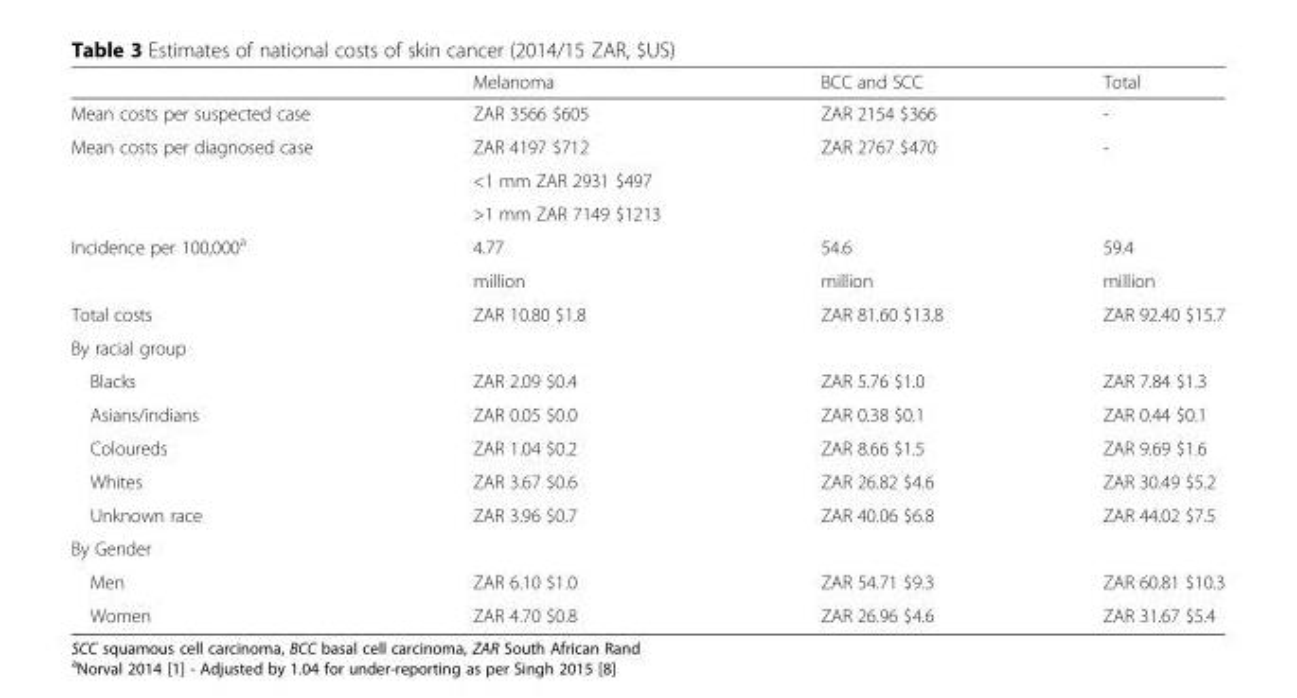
<table><thead><tr><td></td><td>Melanoma</td><td>BCC and SCC</td><td>Total</td></tr></thead><tbody><tr><td>Mean costs per suspected case</td><td>ZAR 3566 $605</td><td>ZAR 2154 $366</td><td>-</td></tr><tr><td rowspan="3">Mean costs per diagnosed case</td><td>ZAR 4197 $712</td><td rowspan="3">ZAR 2767 $470</td><td rowspan="3">-</td></tr><tr><td>&lt;1 mm ZAR 2931 $497</td></tr><tr><td>&gt;1 mm ZAR 7149 $1213</td></tr><tr><td rowspan="2">Incidence per 100,000<sup>a</sup></td><td>4.77</td><td>54.6</td><td>59.4</td></tr><tr><td>million</td><td>million</td><td>million</td></tr><tr><td>Total costs</td><td>ZAR 10.80 $1.8</td><td>ZAR 81.60 $13.8</td><td>ZAR 92.40 $15.7</td></tr><tr><td colspan="4">By racial group</td></tr><tr><td>Blacks</td><td>ZAR 2.09 $0.4</td><td>ZAR 5.76 $1.0</td><td>ZAR 7.84 $1.3</td></tr><tr><td>Asians/indians</td><td>ZAR 0.05 $0.0</td><td>ZAR 0.38 $0.1</td><td>ZAR 0.44 $0.1</td></tr><tr><td>Coloureds</td><td>ZAR 1.04 $0.2</td><td>ZAR 8.66 $1.5</td><td>ZAR 9.69 $1.6</td></tr><tr><td>Whites</td><td>ZAR 3.67 $0.6</td><td>ZAR 26.82 $4.6</td><td>ZAR 30.49 $5.2</td></tr><tr><td>Unknown race</td><td>ZAR 3.96 $0.7</td><td>ZAR 40.06 $6.8</td><td>ZAR 44.02 $7.5</td></tr><tr><td colspan="4">By Gender</td></tr><tr><td>Men</td><td>ZAR 6.10 $1.0</td><td>ZAR 54.71 $9.3</td><td>ZAR 60.81 $10.3</td></tr><tr><td>Women</td><td>ZAR 4.70 $0.8</td><td>ZAR 26.96 $4.6</td><td>ZAR 31.67 $5.4</td></tr></tbody></table>